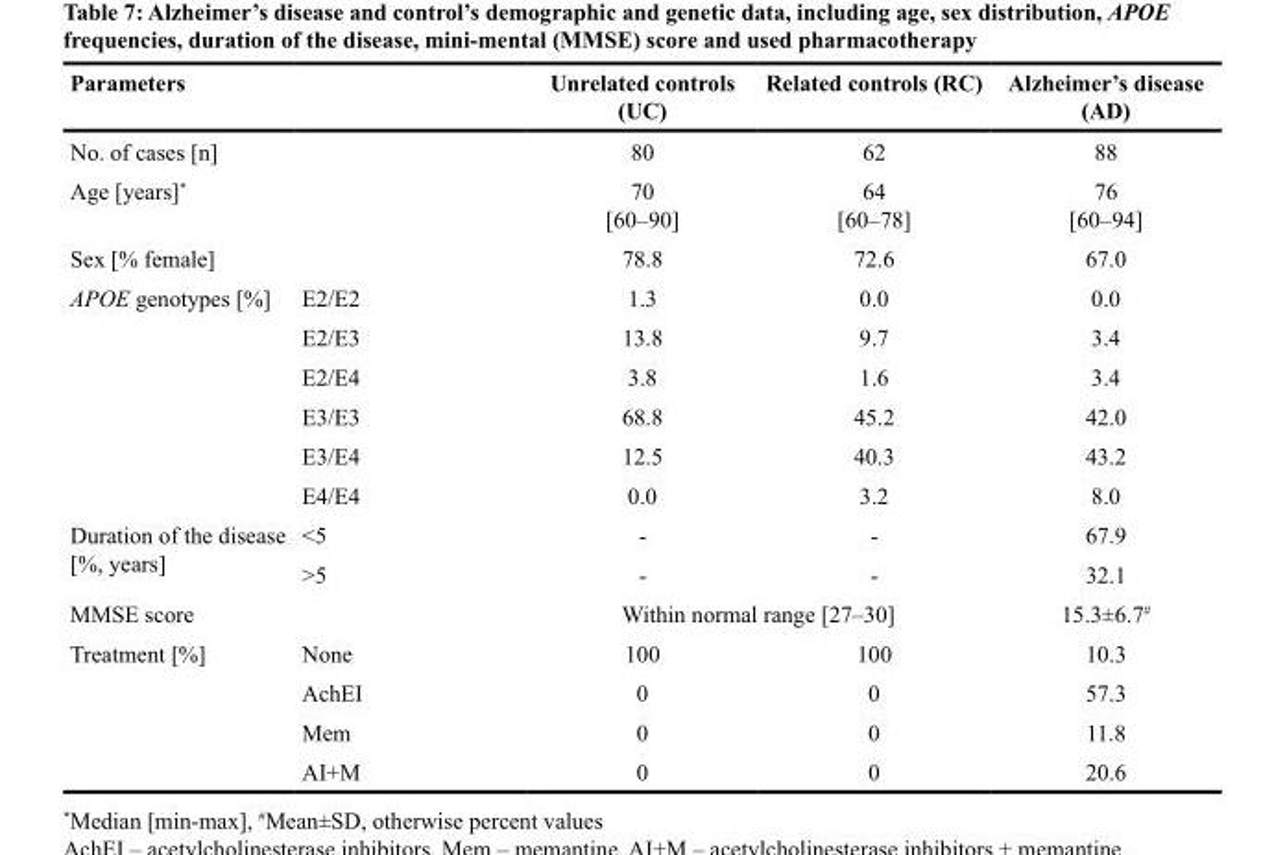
<table><thead><tr><td colspan="2">Parameters</td><td>Unrelated controls (UC)</td><td>Related controls (RC)</td><td>Alzheimer’s disease (AD)</td></tr></thead><tbody><tr><td colspan="2">No. of cases [n]</td><td>80</td><td>62</td><td>88</td></tr><tr><td colspan="2">Age [years]*</td><td>70 [60–90]</td><td>64 [60–78]</td><td>76 [60–94]</td></tr><tr><td colspan="2">Sex [% female]</td><td>78.8</td><td>72.6</td><td>67.0</td></tr><tr><td rowspan="6">APOE genotypes [%]</td><td>E2/E2</td><td>1.3</td><td>0.0</td><td>0.0</td></tr><tr><td>E2/E3</td><td>13.8</td><td>9.7</td><td>3.4</td></tr><tr><td>E2/E4</td><td>3.8</td><td>1.6</td><td>3.4</td></tr><tr><td>E3/E3</td><td>68.8</td><td>45.2</td><td>42.0</td></tr><tr><td>E3/E4</td><td>12.5</td><td>40.3</td><td>43.2</td></tr><tr><td>E4/E4</td><td>0.0</td><td>3.2</td><td>8.0</td></tr><tr><td rowspan="2">Duration of the disease [%, years]</td><td>&lt;5</td><td>-</td><td>-</td><td>67.9</td></tr><tr><td>&gt;5</td><td>-</td><td>-</td><td>32.1</td></tr><tr><td colspan="2">MMSE score</td><td colspan="2">Within normal range [27–30]</td><td>15.3±6.7<sup>#</sup></td></tr><tr><td rowspan="4">Treatment [%]</td><td>None</td><td>100</td><td>100</td><td>10.3</td></tr><tr><td>AchEI</td><td>0</td><td>0</td><td>57.3</td></tr><tr><td>Mem</td><td>0</td><td>0</td><td>11.8</td></tr><tr><td>AI+M</td><td>0</td><td>0</td><td>20.6</td></tr></tbody></table>